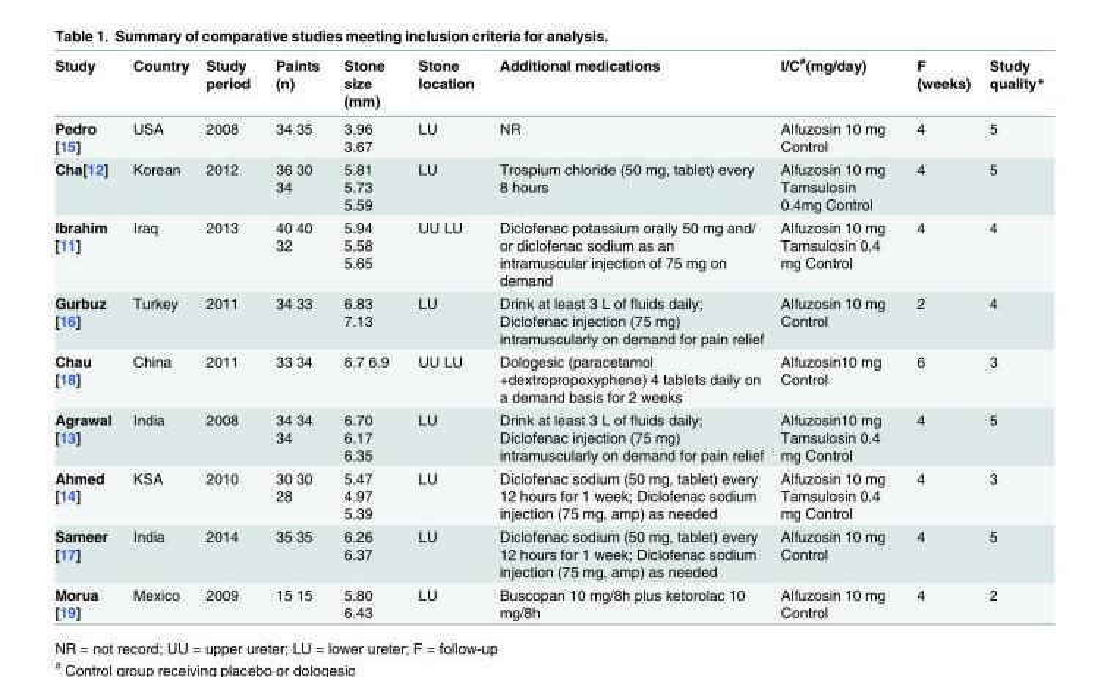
<table><thead><tr><td>Study</td><td>Country</td><td>Study period</td><td>Paints (n)</td><td>Stone size (mm)</td><td>Stone location</td><td>Additional medications</td><td>I/C<sup>#</sup>(mg/day)</td><td>F (weeks)</td><td>Study quality*</td></tr></thead><tbody><tr><td>Pedro [15]</td><td>USA</td><td>2008</td><td>34 35</td><td>3.96 3.67</td><td>LU</td><td>NR</td><td>Alfuzosin 10 mg Control</td><td>4</td><td>5</td></tr><tr><td>Cha[12]</td><td>Korean</td><td>2012</td><td>36 30 34</td><td>5.81 5.73 5.59</td><td>LU</td><td>Trospium chloride (50 mg, tablet) every 8 hours</td><td>Alfuzosin 10 mg Tamsulosin 0.4mg Control</td><td>4</td><td>5</td></tr><tr><td>Ibrahim [11]</td><td>Iraq</td><td>2013</td><td>40 40 32</td><td>5.94 5.58 5.65</td><td>UU LU</td><td>Diclofenac potassium orally 50 mg and/ or diclofenac sodium as an intramuscular injection of 75 mg on demand</td><td>Alfuzosin 10 mg Tamsulosin 0.4 mg Control</td><td>4</td><td>4</td></tr><tr><td>Gurbuz [16]</td><td>Turkey</td><td>2011</td><td>34 33</td><td>6.83 7.13</td><td>LU</td><td>Drink at least 3 L of fluids daily; Diclofenac injection (75 mg) intramuscularly on demand for pain relief</td><td>Alfuzosin 10 mg Control</td><td>2</td><td>4</td></tr><tr><td>Chau [18]</td><td>China</td><td>2011</td><td>33 34</td><td>6.7 6.9</td><td>UU LU</td><td>Dologesic (paracetamol +dextropropoxyphene) 4 tablets daily on a demand basis for 2 weeks</td><td>Alfuzosin10 mg Control</td><td>6</td><td>3</td></tr><tr><td>Agrawal [13]</td><td>India</td><td>2008</td><td>34 34 34</td><td>6.70 6.17 6.35</td><td>LU</td><td>Drink at least 3 L of fluids daily; Diclofenac injection (75 mg) intramuscularly on demand for pain relief</td><td>Alfuzosin10 mg Tamsulosin 0.4 mg Control</td><td>4</td><td>5</td></tr><tr><td>Ahmed [14]</td><td>KSA</td><td>2010</td><td>30 30 28</td><td>5.47 4.97 5.39</td><td>LU</td><td>Diclofenac sodium (50 mg, tablet) every 12 hours for 1 week; Diclofenac sodium injection (75 mg, amp) as needed</td><td>Alfuzosin 10 mg Tamsulosin 0.4 mg Control</td><td>4</td><td>3</td></tr><tr><td>Sameer [17]</td><td>India</td><td>2014</td><td>35 35</td><td>6.26 6.37</td><td>LU</td><td>Diclofenac sodium (50 mg, tablet) every 12 hours for 1 week; Diclofenac sodium injection (75 mg, amp) as needed</td><td>Alfuzosin 10 mg Control</td><td>4</td><td>5</td></tr><tr><td>Morua [19]</td><td>Mexico</td><td>2009</td><td>15 15</td><td>5.80 6.43</td><td>LU</td><td>Buscopan 10 mg/8h plus ketorolac 10 mg/8h</td><td>Alfuzosin 10 mg Control</td><td>4</td><td>2</td></tr></tbody></table>